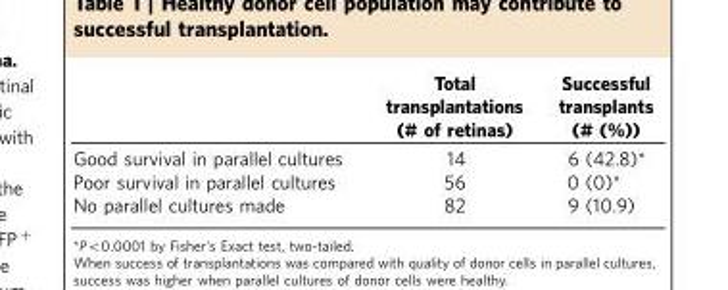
<table><thead><tr><td></td><td>Total transplantations (# of retinas)</td><td>Successful transplants (# (%))</td></tr></thead><tbody><tr><td>Good survival in parallel cultures</td><td>14</td><td>6 (42.8)*</td></tr><tr><td>Poor survival in parallel cultures</td><td>56</td><td>0 (0)*</td></tr><tr><td>No parallel cultures made</td><td>82</td><td>9 (10.9)</td></tr></tbody></table>